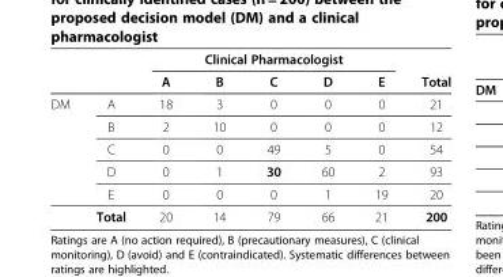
<table><thead><tr><td rowspan="2"></td><td rowspan="2"></td><td colspan="5">Clinical Pharmacologist</td><td rowspan="2">Total</td></tr><tr><td>A</td><td>B</td><td>C</td><td>D</td><td>E</td></tr></thead><tbody><tr><td rowspan="6">DM</td><td>A</td><td>18</td><td>3</td><td>0</td><td>0</td><td>0</td><td>21</td></tr><tr><td>B</td><td>2</td><td>10</td><td>0</td><td>0</td><td>0</td><td>12</td></tr><tr><td>C</td><td>0</td><td>0</td><td>49</td><td>5</td><td>0</td><td>54</td></tr><tr><td>D</td><td>0</td><td>1</td><td>30</td><td>60</td><td>2</td><td>93</td></tr><tr><td>E</td><td>0</td><td>0</td><td>0</td><td>1</td><td>19</td><td>20</td></tr><tr><td>Total</td><td>20</td><td>14</td><td>79</td><td>66</td><td>21</td><td>200</td></tr></tbody></table>